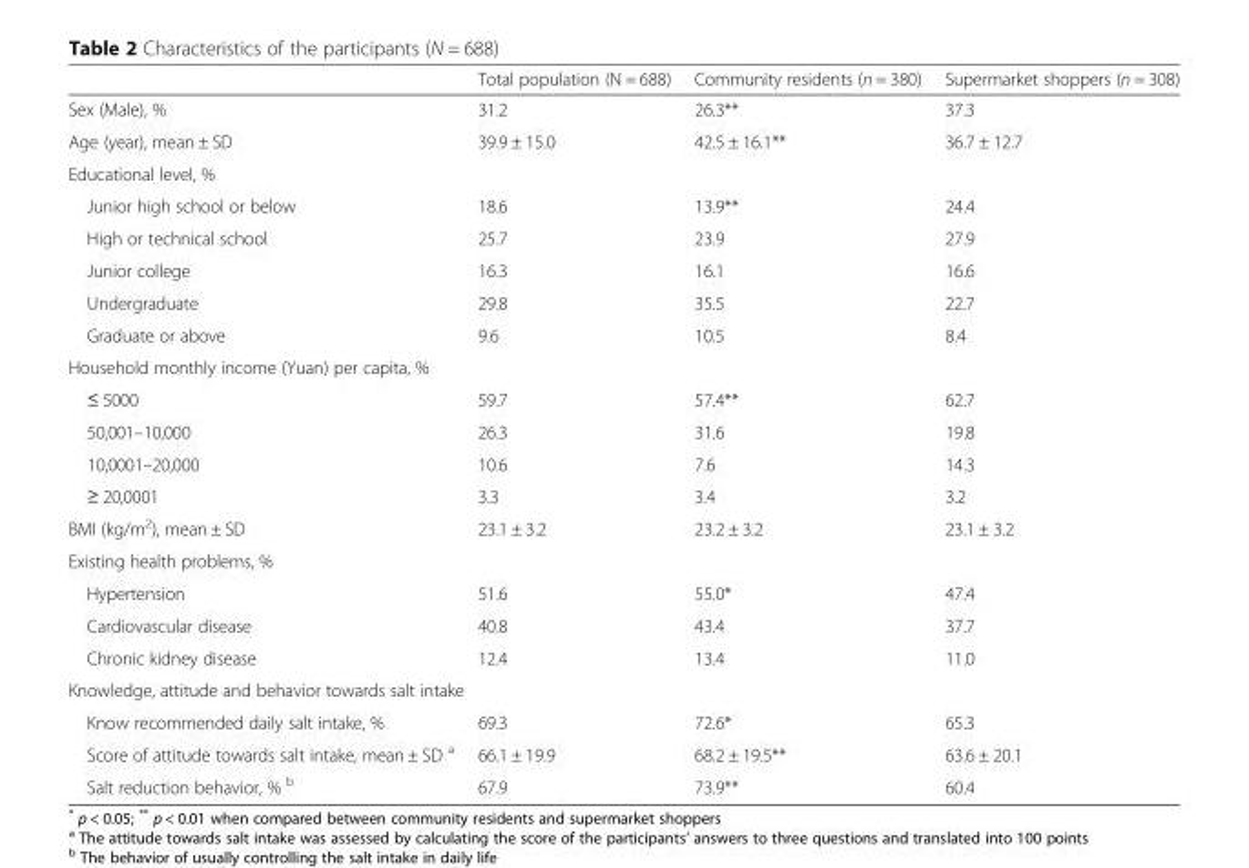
<table><thead><tr><td></td><td>Total population (N = 688)</td><td>Community residents (n = 380)</td><td>Supermarket shoppers (n = 308)</td></tr></thead><tbody><tr><td>Sex (Male), %</td><td>31.2</td><td>26.3**</td><td>37.3</td></tr><tr><td>Age (year), mean ± SD</td><td>39.9 ± 15.0</td><td>42.5 ± 16.1**</td><td>36.7 ± 12.7</td></tr><tr><td colspan="4">Educational level, %</td></tr><tr><td>Junior high school or below</td><td>18.6</td><td>13.9**</td><td>24.4</td></tr><tr><td>High or technical school</td><td>25.7</td><td>23.9</td><td>27.9</td></tr><tr><td>Junior college</td><td>16.3</td><td>16.1</td><td>16.6</td></tr><tr><td>Undergraduate</td><td>29.8</td><td>35.5</td><td>22.7</td></tr><tr><td>Graduate or above</td><td>9.6</td><td>10.5</td><td>8.4</td></tr><tr><td colspan="4">Household monthly income (Yuan) per capita, %</td></tr><tr><td>≤ 5000</td><td>59.7</td><td>57.4**</td><td>62.7</td></tr><tr><td>50,001–10,000</td><td>26.3</td><td>31.6</td><td>19.8</td></tr><tr><td>10,0001–20,000</td><td>10.6</td><td>7.6</td><td>14.3</td></tr><tr><td>≥ 20,0001</td><td>3.3</td><td>3.4</td><td>3.2</td></tr><tr><td>BMI (kg/m<sup>2</sup>), mean ± SD</td><td>23.1 ± 3.2</td><td>23.2 ± 3.2</td><td>23.1 ± 3.2</td></tr><tr><td colspan="4">Existing health problems, %</td></tr><tr><td>Hypertension</td><td>51.6</td><td>55.0*</td><td>47.4</td></tr><tr><td>Cardiovascular disease</td><td>40.8</td><td>43.4</td><td>37.7</td></tr><tr><td>Chronic kidney disease</td><td>12.4</td><td>13.4</td><td>11.0</td></tr><tr><td colspan="4">Knowledge, attitude and behavior towards salt intake</td></tr><tr><td>Know recommended daily salt intake, %</td><td>69.3</td><td>72.6*</td><td>65.3</td></tr><tr><td>Score of attitude towards salt intake, mean ± SD <sup>a</sup></td><td>66.1 ± 19.9</td><td>68.2 ± 19.5**</td><td>63.6 ± 20.1</td></tr><tr><td>Salt reduction behavior, % <sup>b</sup></td><td>67.9</td><td>73.9**</td><td>60.4</td></tr></tbody></table>